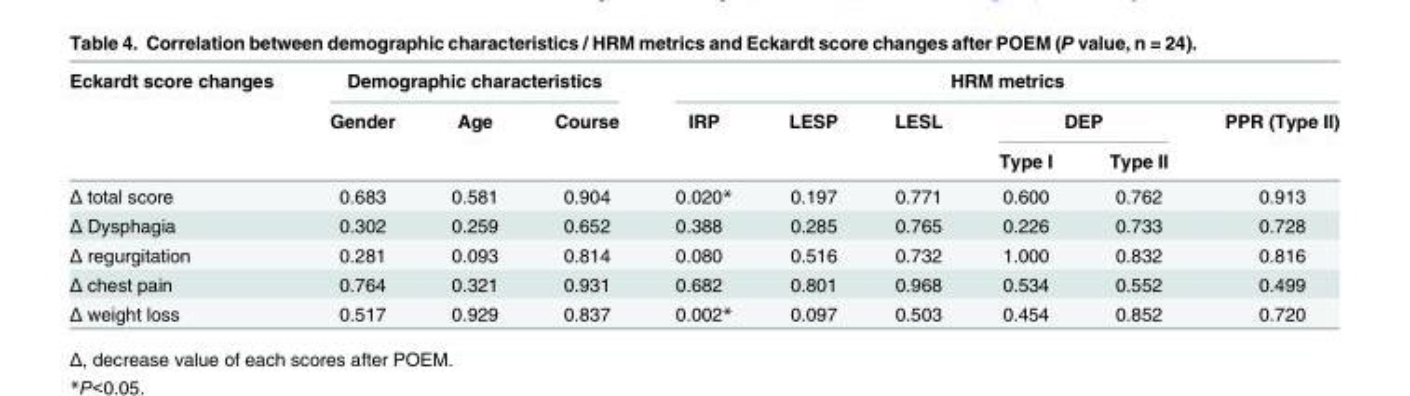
<table><thead><tr><td rowspan="3">Eckardt score changes</td><td colspan="3">Demographic characteristics</td><td colspan="6">HRM metrics</td></tr><tr><td rowspan="2">Gender</td><td rowspan="2">Age</td><td rowspan="2">Course</td><td rowspan="2">IRP</td><td rowspan="2">LESP</td><td rowspan="2">LESL</td><td colspan="2">DEP</td><td rowspan="2">PPR (Type II)</td></tr><tr><td>Type I</td><td>Type II</td></tr></thead><tbody><tr><td>Δ total score</td><td>0.683</td><td>0.581</td><td>0.904</td><td>0.020*</td><td>0.197</td><td>0.771</td><td>0.600</td><td>0.762</td><td>0.913</td></tr><tr><td>Δ Dysphagia</td><td>0.302</td><td>0.259</td><td>0.652</td><td>0.388</td><td>0.285</td><td>0.765</td><td>0.226</td><td>0.733</td><td>0.728</td></tr><tr><td>Δ regurgitation</td><td>0.281</td><td>0.093</td><td>0.814</td><td>0.080</td><td>0.516</td><td>0.732</td><td>1.000</td><td>0.832</td><td>0.816</td></tr><tr><td>Δ chest pain</td><td>0.764</td><td>0.321</td><td>0.931</td><td>0.682</td><td>0.801</td><td>0.968</td><td>0.534</td><td>0.552</td><td>0.499</td></tr><tr><td>Δ weight loss</td><td>0.517</td><td>0.929</td><td>0.837</td><td>0.002*</td><td>0.097</td><td>0.503</td><td>0.454</td><td>0.852</td><td>0.720</td></tr></tbody></table>